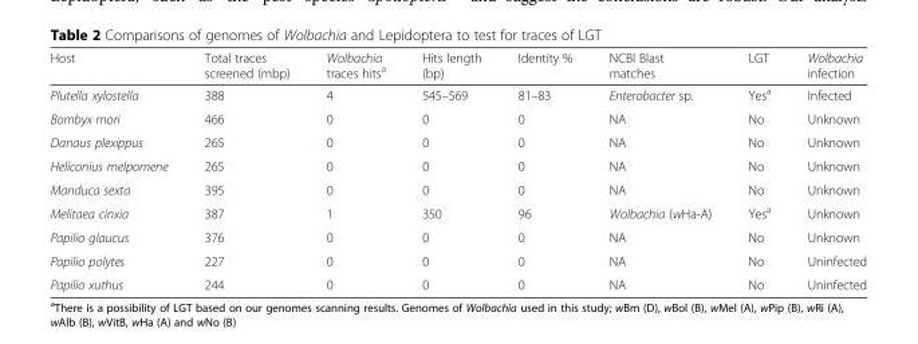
<table><thead><tr><td>Host</td><td>Total traces screened (mbp)</td><td>Wolbachia traces hits<sup>a</sup></td><td>Hits length (bp)</td><td>Identity %</td><td>NCBI Blast matches</td><td>LGT</td><td>Wolbachia infection</td></tr></thead><tbody><tr><td>Plutella xylostella</td><td>388</td><td>4</td><td>545–569</td><td>81–83</td><td>Enterobacter sp.</td><td>Yes<sup>a</sup></td><td>Infected</td></tr><tr><td>Bombyx mori</td><td>466</td><td>0</td><td>0</td><td>0</td><td>NA</td><td>No</td><td>Unknown</td></tr><tr><td>Danaus plexippus</td><td>265</td><td>0</td><td>0</td><td>0</td><td>NA</td><td>No</td><td>Unknown</td></tr><tr><td>Heliconius melpomene</td><td>265</td><td>0</td><td>0</td><td>0</td><td>NA</td><td>No</td><td>Unknown</td></tr><tr><td>Manduca sexta</td><td>395</td><td>0</td><td>0</td><td>0</td><td>NA</td><td>No</td><td>Unknown</td></tr><tr><td>Melitaea cinxia</td><td>387</td><td>1</td><td>350</td><td>96</td><td>Wolbachia (wHa-A)</td><td>Yes<sup>a</sup></td><td>Unknown</td></tr><tr><td>Papilio glaucus</td><td>376</td><td>0</td><td>0</td><td>0</td><td>NA</td><td>No</td><td>Unknown</td></tr><tr><td>Papilio polytes</td><td>227</td><td>0</td><td>0</td><td>0</td><td>NA</td><td>No</td><td>Uninfected</td></tr><tr><td>Papilio xuthus</td><td>244</td><td>0</td><td>0</td><td>0</td><td>NA</td><td>No</td><td>Uninfected</td></tr></tbody></table>